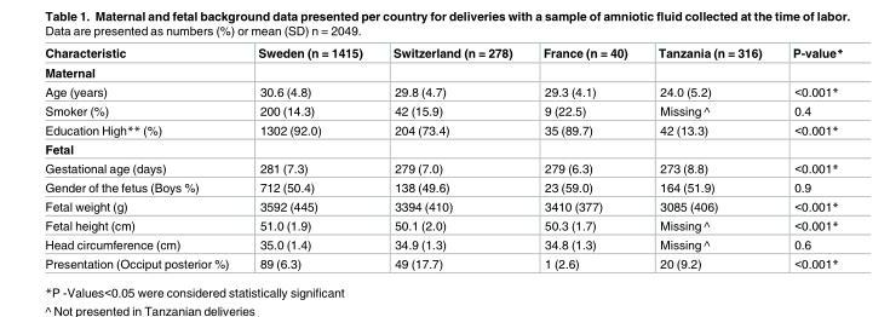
<table><thead><tr><td>Characteristic</td><td>Sweden (n = 1415)</td><td>Switzerland (n = 278)</td><td>France (n = 40)</td><td>Tanzania (n = 316)</td><td>P-value*</td></tr></thead><tbody><tr><td colspan="6">Maternal</td></tr><tr><td>Age (years)</td><td>30.6 (4.8)</td><td>29.8 (4.7)</td><td>29.3 (4.1)</td><td>24.0 (5.2)</td><td>&lt;0.001*</td></tr><tr><td>Smoker (%)</td><td>200 (14.3)</td><td>42 (15.9)</td><td>9 (22.5)</td><td>Missing ^</td><td>0.4</td></tr><tr><td>Education High** (%)</td><td>1302 (92.0)</td><td>204 (73.4)</td><td>35 (89.7)</td><td>42 (13.3)</td><td>&lt;0.001*</td></tr><tr><td colspan="6">Fetal</td></tr><tr><td>Gestational age (days)</td><td>281 (7.3)</td><td>279 (7.0)</td><td>279 (6.3)</td><td>273 (8.8)</td><td>&lt;0.001*</td></tr><tr><td>Gender of the fetus (Boys %)</td><td>712 (50.4)</td><td>138 (49.6)</td><td>23 (59.0)</td><td>164 (51.9)</td><td>0.9</td></tr><tr><td>Fetal weight (g)</td><td>3592 (445)</td><td>3394 (410)</td><td>3410 (377)</td><td>3085 (406)</td><td>&lt;0.001*</td></tr><tr><td>Fetal height (cm)</td><td>51.0 (1.9)</td><td>50.1 (2.0)</td><td>50.3 (1.7)</td><td>Missing ^</td><td>&lt;0.001*</td></tr><tr><td>Head circumference (cm)</td><td>35.0 (1.4)</td><td>34.9 (1.3)</td><td>34.8 (1.3)</td><td>Missing ^</td><td>0.6</td></tr><tr><td>Presentation (Occiput posterior %)</td><td>89 (6.3)</td><td>49 (17.7)</td><td>1 (2.6)</td><td>20 (9.2)</td><td>&lt;0.001*</td></tr></tbody></table>